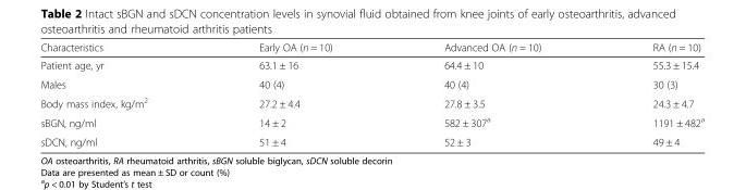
<table><thead><tr><td>Characteristics</td><td>Early OA (n = 10)</td><td>Advanced OA (n = 10)</td><td>RA (n = 10)</td></tr></thead><tbody><tr><td>Patient age, yr</td><td>63.1 ± 16</td><td>64.4 ± 10</td><td>55.3 ± 15.4</td></tr><tr><td>Males</td><td>40 (4)</td><td>40 (4)</td><td>30 (3)</td></tr><tr><td>Body mass index, kg/m<sup>2</sup></td><td>27.2 ± 4.4</td><td>27.8 ± 3.5</td><td>24.3 ± 4.7</td></tr><tr><td>sBGN, ng/ml</td><td>14 ± 2</td><td>582 ± 307<sup>a</sup></td><td>1191 ± 482<sup>a</sup></td></tr><tr><td>sDCN, ng/ml</td><td>51 ± 4</td><td>52 ± 3</td><td>49 ± 4</td></tr></tbody></table>